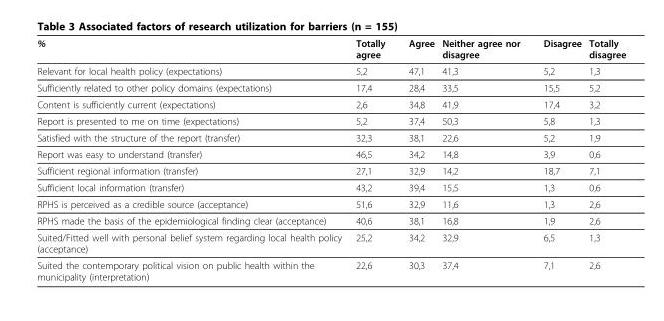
<table><thead><tr><td>%</td><td>Totally agree</td><td>Agree</td><td>Neither agree nor disagree</td><td>Disagree</td><td>Totally disagree</td></tr></thead><tbody><tr><td>Relevant for local health policy (expectations)</td><td>5,2</td><td>47,1</td><td>41,3</td><td>5,2</td><td>1,3</td></tr><tr><td>Sufficiently related to other policy domains (expectations)</td><td>17,4</td><td>28,4</td><td>33,5</td><td>15,5</td><td>5,2</td></tr><tr><td>Content is sufficiently current (expectations)</td><td>2,6</td><td>34,8</td><td>41,9</td><td>17,4</td><td>3,2</td></tr><tr><td>Report is presented to me on time (expectations)</td><td>5,2</td><td>37,4</td><td>50,3</td><td>5,8</td><td>1,3</td></tr><tr><td>Satisfied with the structure of the report (transfer)</td><td>32,3</td><td>38,1</td><td>22,6</td><td>5,2</td><td>1,9</td></tr><tr><td>Report was easy to understand (transfer)</td><td>46,5</td><td>34,2</td><td>14,8</td><td>3,9</td><td>0,6</td></tr><tr><td>Sufficient regional information (transfer)</td><td>27,1</td><td>32,9</td><td>14,2</td><td>18,7</td><td>7,1</td></tr><tr><td>Sufficient local information (transfer)</td><td>43,2</td><td>39,4</td><td>15,5</td><td>1,3</td><td>0,6</td></tr><tr><td>RPHS is perceived as a credible source (acceptance)</td><td>51,6</td><td>32,9</td><td>11,6</td><td>1,3</td><td>2,6</td></tr><tr><td>RPHS made the basis of the epidemiological finding clear (acceptance)</td><td>40,6</td><td>38,1</td><td>16,8</td><td>1,9</td><td>2,6</td></tr><tr><td>Suited/Fitted well with personal belief system regarding local health policy (acceptance)</td><td>25,2</td><td>34,2</td><td>32,9</td><td>6,5</td><td>1,3</td></tr><tr><td>Suited the contemporary political vision on public health within the municipality (interpretation)</td><td>22,6</td><td>30,3</td><td>37,4</td><td>7,1</td><td>2,6</td></tr></tbody></table>